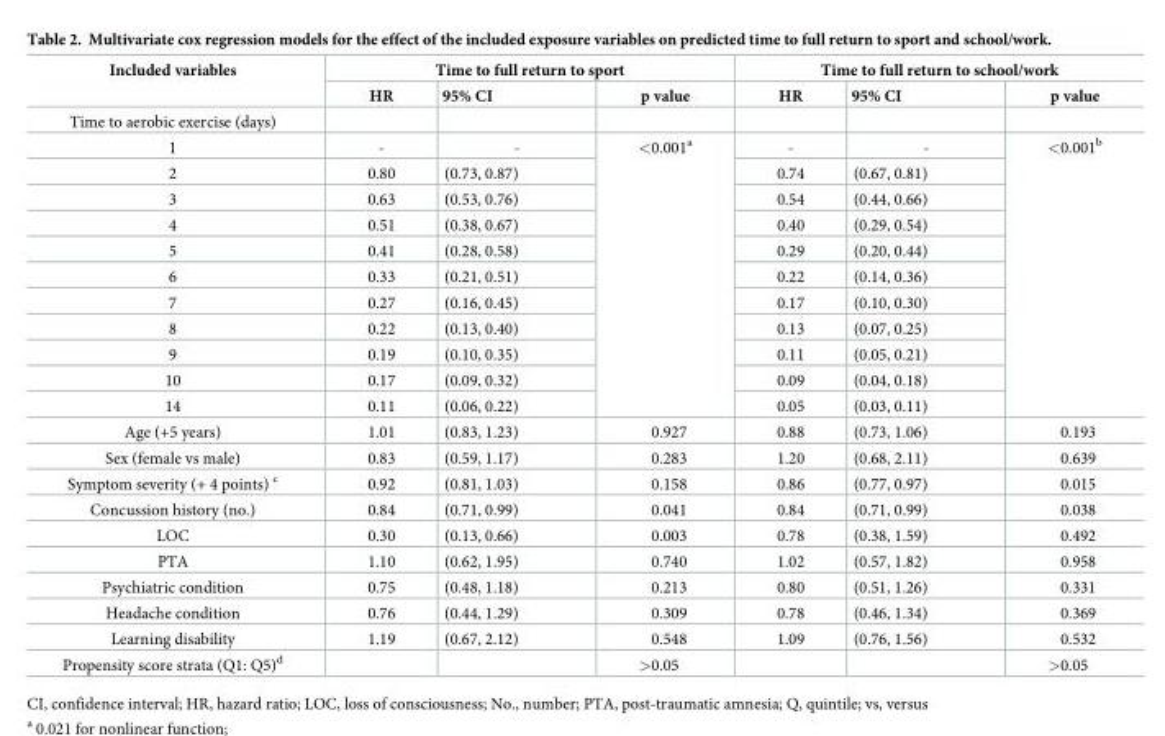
<table><thead><tr><td rowspan="2">Included variables</td><td colspan="3">Time to full return to sport</td><td colspan="3">Time to full return to school/work</td></tr><tr><td>HR</td><td>95% CI</td><td>p value</td><td>HR</td><td>95% CI</td><td>p value</td></tr></thead><tbody><tr><td colspan="7">Time to aerobic exercise (days)</td></tr><tr><td>1</td><td>-</td><td>-</td><td rowspan="11">&lt;0.001<sup>a</sup></td><td>-</td><td>-</td><td rowspan="11">&lt;0.001<sup>b</sup></td></tr><tr><td>2</td><td>0.80</td><td>(0.73, 0.87)</td><td>0.74</td><td>(0.67, 0.81)</td></tr><tr><td>3</td><td>0.63</td><td>(0.53, 0.76)</td><td>0.54</td><td>(0.44, 0.66)</td></tr><tr><td>4</td><td>0.51</td><td>(0.38, 0.67)</td><td>0.40</td><td>(0.29, 0.54)</td></tr><tr><td>5</td><td>0.41</td><td>(0.28, 0.58)</td><td>0.29</td><td>(0.20, 0.44)</td></tr><tr><td>6</td><td>0.33</td><td>(0.21, 0.51)</td><td>0.22</td><td>(0.14, 0.36)</td></tr><tr><td>7</td><td>0.27</td><td>(0.16, 0.45)</td><td>0.17</td><td>(0.10, 0.30)</td></tr><tr><td>8</td><td>0.22</td><td>(0.13, 0.40)</td><td>0.13</td><td>(0.07, 0.25)</td></tr><tr><td>9</td><td>0.19</td><td>(0.10, 0.35)</td><td>0.11</td><td>(0.05, 0.21)</td></tr><tr><td>10</td><td>0.17</td><td>(0.09, 0.32)</td><td>0.09</td><td>(0.04, 0.18)</td></tr><tr><td>14</td><td>0.11</td><td>(0.06, 0.22)</td><td>0.05</td><td>(0.03, 0.11)</td></tr><tr><td>Age (+5 years)</td><td>1.01</td><td>(0.83, 1.23)</td><td>0.927</td><td>0.88</td><td>(0.73, 1.06)</td><td>0.193</td></tr><tr><td>Sex (female vs male)</td><td>0.83</td><td>(0.59, 1.17)</td><td>0.283</td><td>1.20</td><td>(0.68, 2.11)</td><td>0.639</td></tr><tr><td>Symptom severity (+ 4 points) <sup>c</sup></td><td>0.92</td><td>(0.81, 1.03)</td><td>0.158</td><td>0.86</td><td>(0.77, 0.97)</td><td>0.015</td></tr><tr><td>Concussion history (no.)</td><td>0.84</td><td>(0.71, 0.99)</td><td>0.041</td><td>0.84</td><td>(0.71, 0.99)</td><td>0.038</td></tr><tr><td>LOC</td><td>0.30</td><td>(0.13, 0.66)</td><td>0.003</td><td>0.78</td><td>(0.38, 1.59)</td><td>0.492</td></tr><tr><td>PTA</td><td>1.10</td><td>(0.62, 1.95)</td><td>0.740</td><td>1.02</td><td>(0.57, 1.82)</td><td>0.958</td></tr><tr><td>Psychiatric condition</td><td>0.75</td><td>(0.48, 1.18)</td><td>0.213</td><td>0.80</td><td>(0.51, 1.26)</td><td>0.331</td></tr><tr><td>Headache condition</td><td>0.76</td><td>(0.44, 1.29)</td><td>0.309</td><td>0.78</td><td>(0.46, 1.34)</td><td>0.369</td></tr><tr><td>Learning disability</td><td>1.19</td><td>(0.67, 2.12)</td><td>0.548</td><td>1.09</td><td>(0.76, 1.56)</td><td>0.532</td></tr><tr><td>Propensity score strata (Q1: Q5)<sup>d</sup></td><td></td><td></td><td>&gt;0.05</td><td></td><td></td><td>&gt;0.05</td></tr></tbody></table>